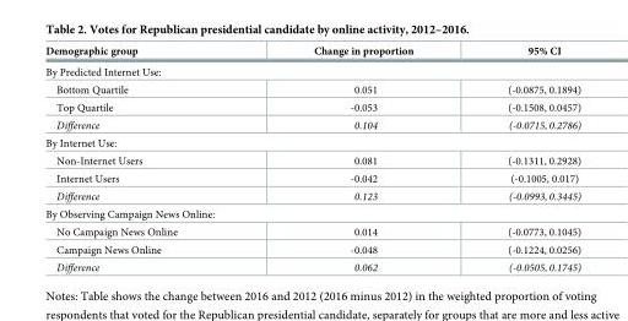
<table><thead><tr><td>Demographic group</td><td>Change in proportion</td><td>95% CI</td></tr></thead><tbody><tr><td colspan="3">By Predicted Internet Use:</td></tr><tr><td>Bottom Quartile</td><td>0.051</td><td>(-0.0875, 0.1894)</td></tr><tr><td>Top Quartile</td><td>-0.053</td><td>(-0.1508, 0.0457)</td></tr><tr><td>Difference</td><td>0.104</td><td>(-0.0715, 0.2786)</td></tr><tr><td colspan="3">By Internet Use:</td></tr><tr><td>Non-Internet Users</td><td>0.081</td><td>(-0.1311, 0.2928)</td></tr><tr><td>Internet Users</td><td>-0.042</td><td>(-0.1005, 0.017)</td></tr><tr><td>Difference</td><td>0.123</td><td>(-0.0993, 0.3445)</td></tr><tr><td colspan="3">By Observing Campaign News Online:</td></tr><tr><td>No Campaign News Online</td><td>0.014</td><td>(-0.0773, 0.1045)</td></tr><tr><td>Campaign News Online</td><td>-0.048</td><td>(-0.1224, 0.0256)</td></tr><tr><td>Difference</td><td>0.062</td><td>(-0.0505, 0.1745)</td></tr></tbody></table>